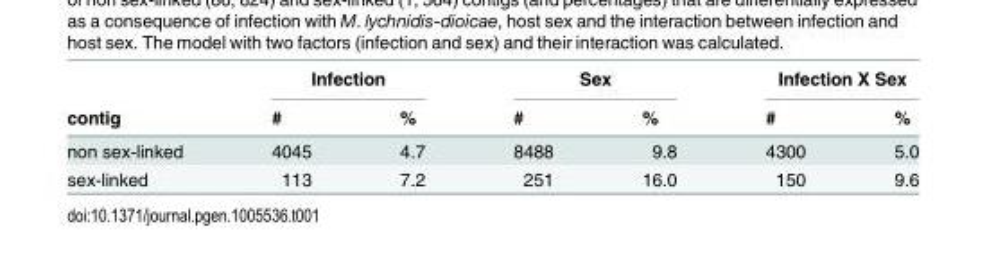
<table><thead><tr><td rowspan="2">contig</td><td colspan="2">Infection</td><td colspan="2">Sex</td><td colspan="2">Infection X Sex</td></tr><tr><td>#</td><td>%</td><td>#</td><td>%</td><td>#</td><td>%</td></tr></thead><tbody><tr><td>non sex-linked</td><td>4045</td><td>4.7</td><td>8488</td><td>9.8</td><td>4300</td><td>5.0</td></tr><tr><td>sex-linked</td><td>113</td><td>7.2</td><td>251</td><td>16.0</td><td>150</td><td>9.6</td></tr></tbody></table>